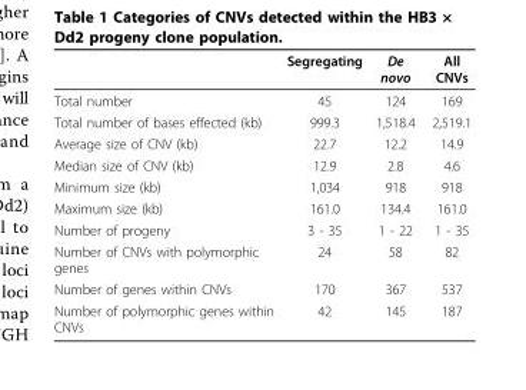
<table><thead><tr><td></td><td>Segregating</td><td>De novo</td><td>All CNVs</td></tr></thead><tbody><tr><td>Total number</td><td>45</td><td>124</td><td>169</td></tr><tr><td>Total number of bases effected (kb)</td><td>999.3</td><td>1,518.4</td><td>2,519.1</td></tr><tr><td>Average size of CNV (kb)</td><td>22.7</td><td>12.2</td><td>14.9</td></tr><tr><td>Median size of CNV (kb)</td><td>12.9</td><td>2.8</td><td>4.6</td></tr><tr><td>Minimum size (kb)</td><td>1,034</td><td>918</td><td>918</td></tr><tr><td>Maximum size (kb)</td><td>161.0</td><td>134.4</td><td>161.0</td></tr><tr><td>Number of progeny</td><td>3 - 35</td><td>1 - 22</td><td>1 - 35</td></tr><tr><td>Number of CNVs with polymorphic genes</td><td>24</td><td>58</td><td>82</td></tr><tr><td>Number of genes within CNVs</td><td>170</td><td>367</td><td>537</td></tr><tr><td>Number of polymorphic genes within CNVs</td><td>42</td><td>145</td><td>187</td></tr></tbody></table>